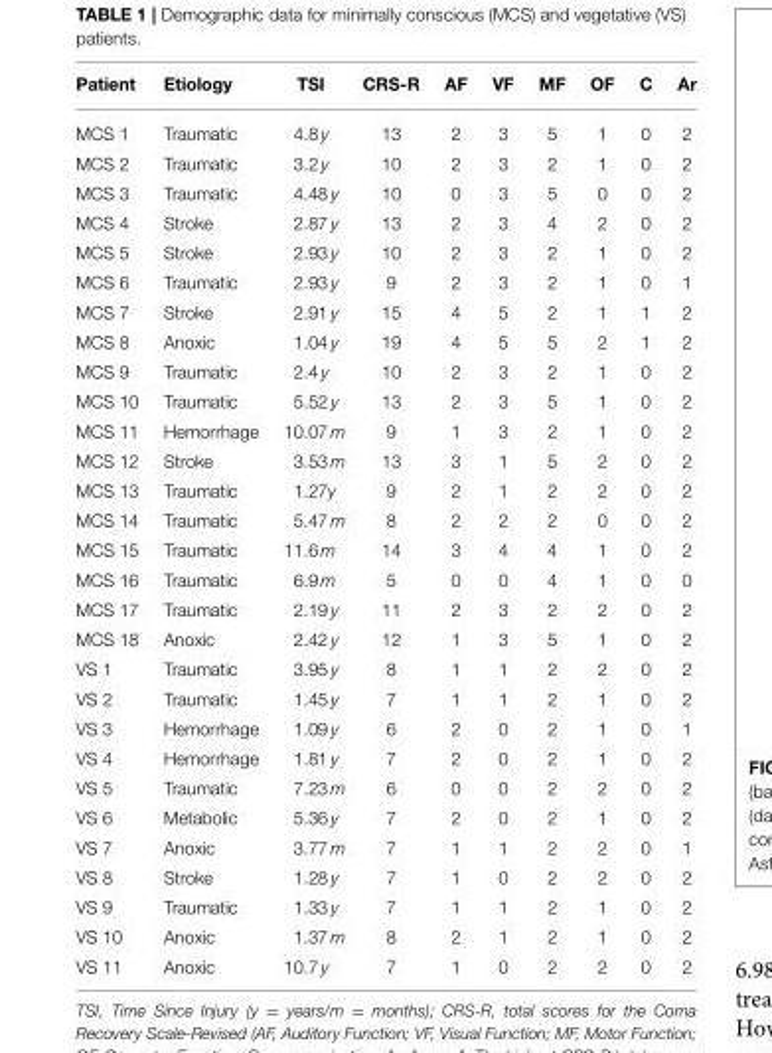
<table><thead><tr><td>Patient</td><td>Etiology</td><td>TSI</td><td>CRS-R</td><td>AF</td><td>VF</td><td>MF</td><td>OF</td><td>C</td><td>Ar</td></tr></thead><tbody><tr><td>MCS 1</td><td>Traumatic</td><td>4.8 y</td><td>13</td><td>2</td><td>3</td><td>5</td><td>1</td><td>0</td><td>2</td></tr><tr><td>MCS 2</td><td>Traumatic</td><td>3.2 y</td><td>10</td><td>2</td><td>3</td><td>2</td><td>1</td><td>0</td><td>2</td></tr><tr><td>MCS 3</td><td>Traumatic</td><td>4.48 y</td><td>10</td><td>0</td><td>3</td><td>5</td><td>0</td><td>0</td><td>2</td></tr><tr><td>MCS 4</td><td>Stroke</td><td>2.87 y</td><td>13</td><td>2</td><td>3</td><td>4</td><td>2</td><td>0</td><td>2</td></tr><tr><td>MCS 5</td><td>Stroke</td><td>2.93 y</td><td>10</td><td>2</td><td>3</td><td>2</td><td>1</td><td>0</td><td>2</td></tr><tr><td>MCS 6</td><td>Traumatic</td><td>2.93 y</td><td>9</td><td>2</td><td>3</td><td>2</td><td>1</td><td>0</td><td>1</td></tr><tr><td>MCS 7</td><td>Stroke</td><td>2.91 y</td><td>15</td><td>4</td><td>5</td><td>2</td><td>1</td><td>1</td><td>2</td></tr><tr><td>MCS 8</td><td>Anoxic</td><td>1.04 y</td><td>19</td><td>4</td><td>5</td><td>5</td><td>2</td><td>1</td><td>2</td></tr><tr><td>MCS 9</td><td>Traumatic</td><td>2.4 y</td><td>10</td><td>2</td><td>3</td><td>2</td><td>1</td><td>0</td><td>2</td></tr><tr><td>MCS 10</td><td>Traumatic</td><td>5.52 y</td><td>13</td><td>2</td><td>3</td><td>5</td><td>1</td><td>0</td><td>2</td></tr><tr><td>MCS 11</td><td>Hemorrhage</td><td>10.07 m</td><td>9</td><td>1</td><td>3</td><td>2</td><td>1</td><td>0</td><td>2</td></tr><tr><td>MCS 12</td><td>Stroke</td><td>3.53 m</td><td>13</td><td>3</td><td>1</td><td>5</td><td>2</td><td>0</td><td>2</td></tr><tr><td>MCS 13</td><td>Traumatic</td><td>1.27y</td><td>9</td><td>2</td><td>1</td><td>2</td><td>2</td><td>0</td><td>2</td></tr><tr><td>MCS 14</td><td>Traumatic</td><td>5.47 m</td><td>8</td><td>2</td><td>2</td><td>2</td><td>0</td><td>0</td><td>2</td></tr><tr><td>MCS 15</td><td>Traumatic</td><td>11.6 m</td><td>14</td><td>3</td><td>4</td><td>4</td><td>1</td><td>0</td><td>2</td></tr><tr><td>MCS 16</td><td>Traumatic</td><td>6.9 m</td><td>5</td><td>0</td><td>0</td><td>4</td><td>1</td><td>0</td><td>0</td></tr><tr><td>MCS 17</td><td>Traumatic</td><td>2.19 y</td><td>11</td><td>2</td><td>3</td><td>2</td><td>2</td><td>0</td><td>2</td></tr><tr><td>MCS 18</td><td>Anoxic</td><td>2.42 y</td><td>12</td><td>1</td><td>3</td><td>5</td><td>1</td><td>0</td><td>2</td></tr><tr><td>VS 1</td><td>Traumatic</td><td>3.95 y</td><td>8</td><td>1</td><td>1</td><td>2</td><td>2</td><td>0</td><td>2</td></tr><tr><td>VS 2</td><td>Traumatic</td><td>1.45 y</td><td>7</td><td>1</td><td>1</td><td>2</td><td>1</td><td>0</td><td>2</td></tr><tr><td>VS 3</td><td>Hemorrhage</td><td>1.09 y</td><td>6</td><td>2</td><td>0</td><td>2</td><td>1</td><td>0</td><td>1</td></tr><tr><td>VS 4</td><td>Hemorrhage</td><td>1.81 y</td><td>7</td><td>2</td><td>0</td><td>2</td><td>1</td><td>0</td><td>2</td></tr><tr><td>VS 5</td><td>Traumatic</td><td>7.23 m</td><td>6</td><td>0</td><td>0</td><td>2</td><td>2</td><td>0</td><td>2</td></tr><tr><td>VS 6</td><td>Metabolic</td><td>5.36 y</td><td>7</td><td>2</td><td>0</td><td>2</td><td>1</td><td>0</td><td>2</td></tr><tr><td>VS 7</td><td>Anoxic</td><td>3.77 m</td><td>7</td><td>1</td><td>1</td><td>2</td><td>2</td><td>0</td><td>1</td></tr><tr><td>VS 8</td><td>Stroke</td><td>1.28 y</td><td>7</td><td>1</td><td>0</td><td>2</td><td>2</td><td>0</td><td>2</td></tr><tr><td>VS 9</td><td>Traumatic</td><td>1.33 y</td><td>7</td><td>1</td><td>1</td><td>2</td><td>1</td><td>0</td><td>2</td></tr><tr><td>VS 10</td><td>Anoxic</td><td>1.37 m</td><td>8</td><td>2</td><td>1</td><td>2</td><td>1</td><td>0</td><td>2</td></tr><tr><td>VS 11</td><td>Anoxic</td><td>10.7 y</td><td>7</td><td>1</td><td>0</td><td>2</td><td>2</td><td>0</td><td>2</td></tr></tbody></table>